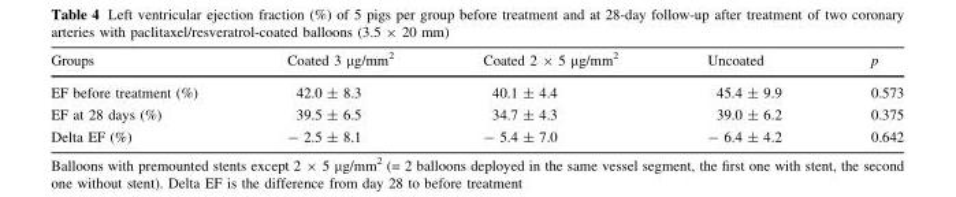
<table><thead><tr><td>Groups</td><td>Coated 3 µg/mm<sup>2</sup></td><td>Coated 2 × 5 µg/mm<sup>2</sup></td><td>Uncoated</td><td>p</td></tr></thead><tbody><tr><td>EF before treatment (%)</td><td>42.0 ± 8.3</td><td>40.1 ± 4.4</td><td>45.4 ± 9.9</td><td>0.573</td></tr><tr><td>EF at 28 days (%)</td><td>39.5 ± 6.5</td><td>34.7 ± 4.3</td><td>39.0 ± 6.2</td><td>0.375</td></tr><tr><td>Delta EF (%)</td><td>- 2.5 ± 8.1</td><td>- 5.4 ± 7.0</td><td>- 6.4 ± 4.2</td><td>0.642</td></tr></tbody></table>